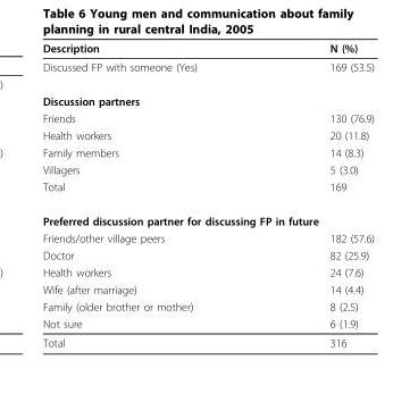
<table><thead><tr><td>Description</td><td>N (%)</td></tr></thead><tbody><tr><td>Discussed FP with someone (Yes)</td><td>169 (53.5)</td></tr><tr><td colspan="2">Discussion partners</td></tr><tr><td>Friends</td><td>130 (76.9)</td></tr><tr><td>Health workers</td><td>20 (11.8)</td></tr><tr><td>Family members</td><td>14 (8.3)</td></tr><tr><td>Villagers</td><td>5 (3.0)</td></tr><tr><td>Total</td><td>169</td></tr><tr><td colspan="2">Preferred discussion partner for discussing FP in future</td></tr><tr><td>Friends/other village peers</td><td>182 (57.6)</td></tr><tr><td>Doctor</td><td>82 (25.9)</td></tr><tr><td>Health workers</td><td>24 (7.6)</td></tr><tr><td>Wife (after marriage)</td><td>14 (4.4)</td></tr><tr><td>Family (older brother or mother)</td><td>8 (2.5)</td></tr><tr><td>Not sure</td><td>6 (1.9)</td></tr><tr><td>Total</td><td>316</td></tr></tbody></table>